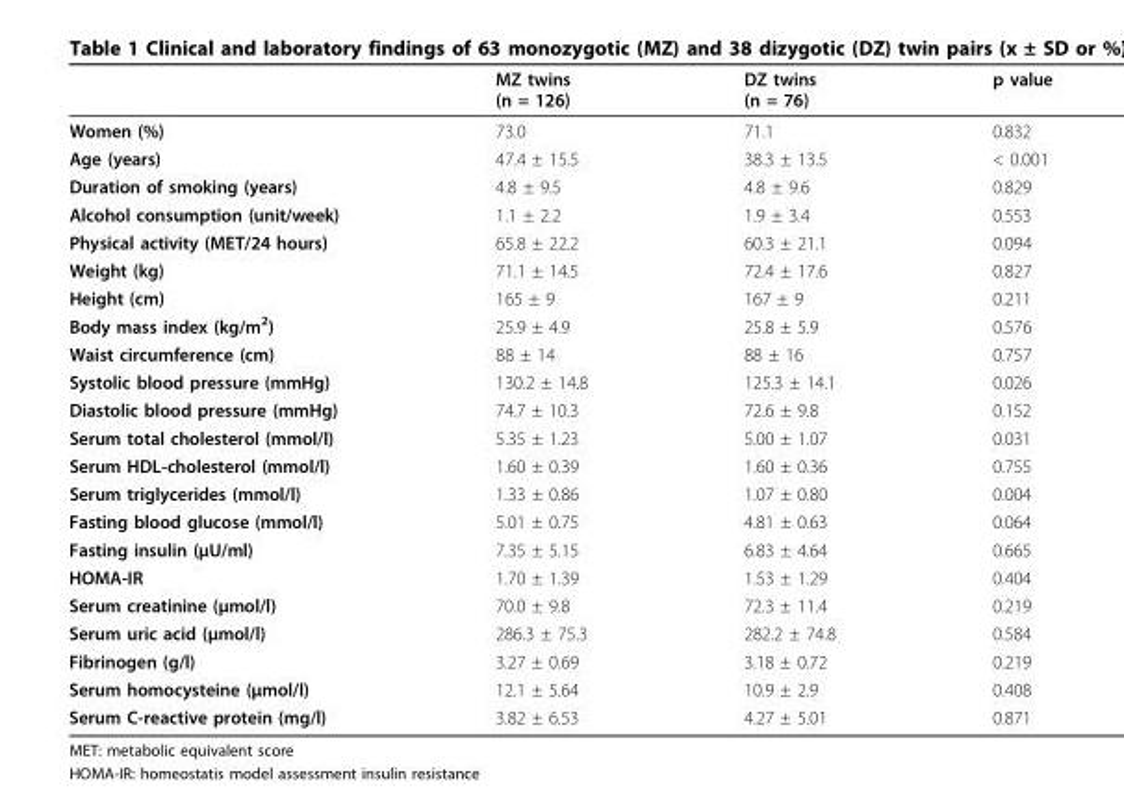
<table><thead><tr><td></td><td>MZ twins (n = 126)</td><td>DZ twins (n = 76)</td><td>p value</td></tr></thead><tbody><tr><td>Women (%)</td><td>73.0</td><td>71.1</td><td>0.832</td></tr><tr><td>Age (years)</td><td>47.4 ± 15.5</td><td>38.3 ± 13.5</td><td>&lt; 0.001</td></tr><tr><td>Duration of smoking (years)</td><td>4.8 ± 9.5</td><td>4.8 ± 9.6</td><td>0.829</td></tr><tr><td>Alcohol consumption (unit/week)</td><td>1.1 ± 2.2</td><td>1.9 ± 3.4</td><td>0.553</td></tr><tr><td>Physical activity (MET/24 hours)</td><td>65.8 ± 22.2</td><td>60.3 ± 21.1</td><td>0.094</td></tr><tr><td>Weight (kg)</td><td>71.1 ± 14.5</td><td>72.4 ± 17.6</td><td>0.827</td></tr><tr><td>Height (cm)</td><td>165 ± 9</td><td>167 ± 9</td><td>0.211</td></tr><tr><td>Body mass index (kg/m<sup>2</sup>)</td><td>25.9 ± 4.9</td><td>25.8 ± 5.9</td><td>0.576</td></tr><tr><td>Waist circumference (cm)</td><td>88 ± 14</td><td>88 ± 16</td><td>0.757</td></tr><tr><td>Systolic blood pressure (mmHg)</td><td>130.2 ± 14.8</td><td>125.3 ± 14.1</td><td>0.026</td></tr><tr><td>Diastolic blood pressure (mmHg)</td><td>74.7 ± 10.3</td><td>72.6 ± 9.8</td><td>0.152</td></tr><tr><td>Serum total cholesterol (mmol/l)</td><td>5.35 ± 1.23</td><td>5.00 ± 1.07</td><td>0.031</td></tr><tr><td>Serum HDL-cholesterol (mmol/l)</td><td>1.60 ± 0.39</td><td>1.60 ± 0.36</td><td>0.755</td></tr><tr><td>Serum triglycerides (mmol/l)</td><td>1.33 ± 0.86</td><td>1.07 ± 0.80</td><td>0.004</td></tr><tr><td>Fasting blood glucose (mmol/l)</td><td>5.01 ± 0.75</td><td>4.81 ± 0.63</td><td>0.064</td></tr><tr><td>Fasting insulin (μU/ml)</td><td>7.35 ± 5.15</td><td>6.83 ± 4.64</td><td>0.665</td></tr><tr><td>HOMA-IR</td><td>1.70 ± 1.39</td><td>1.53 ± 1.29</td><td>0.404</td></tr><tr><td>Serum creatinine (μmol/l)</td><td>70.0 ± 9.8</td><td>72.3 ± 11.4</td><td>0.219</td></tr><tr><td>Serum uric acid (μmol/l)</td><td>286.3 ± 75.3</td><td>282.2 ± 74.8</td><td>0.584</td></tr><tr><td>Fibrinogen (g/l)</td><td>3.27 ± 0.69</td><td>3.18 ± 0.72</td><td>0.219</td></tr><tr><td>Serum homocysteine (μmol/l)</td><td>12.1 ± 5.64</td><td>10.9 ± 2.9</td><td>0.408</td></tr><tr><td>Serum C-reactive protein (mg/l)</td><td>3.82 ± 6.53</td><td>4.27 ± 5.01</td><td>0.871</td></tr></tbody></table>